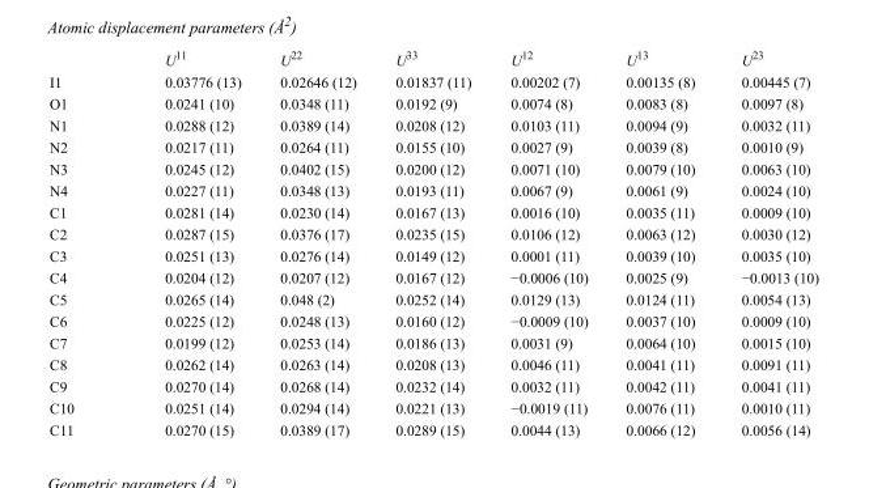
<table><thead><tr><td></td><td>U<sup>11</sup></td><td>U<sup>22</sup></td><td>U<sup>33</sup></td><td>U<sup>12</sup></td><td>U<sup>13</sup></td><td>U<sup>23</sup></td></tr></thead><tbody><tr><td>I1</td><td>0.03776 (13)</td><td>0.02646 (12)</td><td>0.01837 (11)</td><td>0.00202 (7)</td><td>0.00135 (8)</td><td>0.00445 (7)</td></tr><tr><td>O1</td><td>0.0241 (10)</td><td>0.0348 (11)</td><td>0.0192 (9)</td><td>0.0074 (8)</td><td>0.0083 (8)</td><td>0.0097 (8)</td></tr><tr><td>N1</td><td>0.0288 (12)</td><td>0.0389 (14)</td><td>0.0208 (12)</td><td>0.0103 (11)</td><td>0.0094 (9)</td><td>0.0032 (11)</td></tr><tr><td>N2</td><td>0.0217 (11)</td><td>0.0264 (11)</td><td>0.0155 (10)</td><td>0.0027 (9)</td><td>0.0039 (8)</td><td>0.0010 (9)</td></tr><tr><td>N3</td><td>0.0245 (12)</td><td>0.0402 (15)</td><td>0.0200 (12)</td><td>0.0071 (10)</td><td>0.0079 (10)</td><td>0.0063 (10)</td></tr><tr><td>N4</td><td>0.0227 (11)</td><td>0.0348 (13)</td><td>0.0193 (11)</td><td>0.0067 (9)</td><td>0.0061 (9)</td><td>0.0024 (10)</td></tr><tr><td>C1</td><td>0.0281 (14)</td><td>0.0230 (14)</td><td>0.0167 (13)</td><td>0.0016 (10)</td><td>0.0035 (11)</td><td>0.0009 (10)</td></tr><tr><td>C2</td><td>0.0287 (15)</td><td>0.0376 (17)</td><td>0.0235 (15)</td><td>0.0106 (12)</td><td>0.0063 (12)</td><td>0.0030 (12)</td></tr><tr><td>C3</td><td>0.0251 (13)</td><td>0.0276 (14)</td><td>0.0149 (12)</td><td>0.0001 (11)</td><td>0.0039 (10)</td><td>0.0035 (10)</td></tr><tr><td>C4</td><td>0.0204 (12)</td><td>0.0207 (12)</td><td>0.0167 (12)</td><td>−0.0006 (10)</td><td>0.0025 (9)</td><td>−0.0013 (10)</td></tr><tr><td>C5</td><td>0.0265 (14)</td><td>0.048 (2)</td><td>0.0252 (14)</td><td>0.0129 (13)</td><td>0.0124 (11)</td><td>0.0054 (13)</td></tr><tr><td>C6</td><td>0.0225 (12)</td><td>0.0248 (13)</td><td>0.0160 (12)</td><td>−0.0009 (10)</td><td>0.0037 (10)</td><td>0.0009 (10)</td></tr><tr><td>C7</td><td>0.0199 (12)</td><td>0.0253 (14)</td><td>0.0186 (13)</td><td>0.0031 (9)</td><td>0.0064 (10)</td><td>0.0015 (10)</td></tr><tr><td>C8</td><td>0.0262 (14)</td><td>0.0263 (14)</td><td>0.0208 (13)</td><td>0.0046 (11)</td><td>0.0041 (11)</td><td>0.0091 (11)</td></tr><tr><td>C9</td><td>0.0270 (14)</td><td>0.0268 (14)</td><td>0.0232 (14)</td><td>0.0032 (11)</td><td>0.0042 (11)</td><td>0.0041 (11)</td></tr><tr><td>C10</td><td>0.0251 (14)</td><td>0.0294 (14)</td><td>0.0221 (13)</td><td>−0.0019 (11)</td><td>0.0076 (11)</td><td>0.0010 (11)</td></tr><tr><td>C11</td><td>0.0270 (15)</td><td>0.0389 (17)</td><td>0.0289 (15)</td><td>0.0044 (13)</td><td>0.0066 (12)</td><td>0.0056 (14)</td></tr></tbody></table>